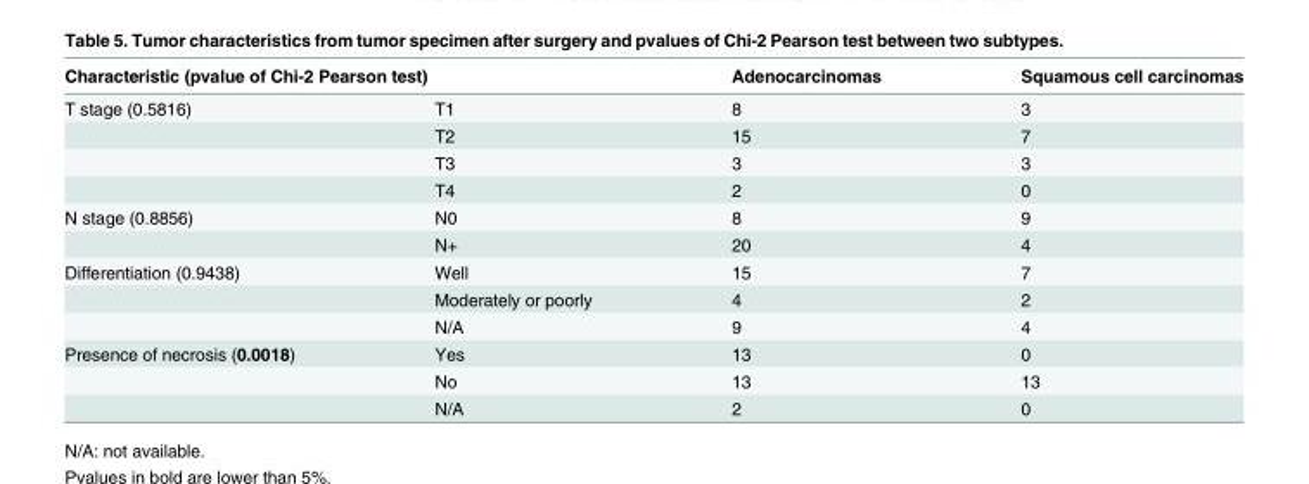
<table><thead><tr><td colspan="2">Characteristic (pvalue of Chi-2 Pearson test)</td><td rowspan="2">Adenocarcinomas 8</td><td rowspan="2">Squamous cell carcinomas 3</td></tr><tr><td>T stage (0.5816)</td><td>T1</td></tr></thead><tbody><tr><td></td><td>T2</td><td>15</td><td>7</td></tr><tr><td></td><td>T3</td><td>3</td><td>3</td></tr><tr><td></td><td>T4</td><td>2</td><td>0</td></tr><tr><td rowspan="2">N stage (0.8856)</td><td>N0</td><td>8</td><td>9</td></tr><tr><td>N+</td><td>20</td><td>4</td></tr><tr><td rowspan="3">Differentiation (0.9438)</td><td>Well</td><td>15</td><td>7</td></tr><tr><td>Moderately or poorly</td><td>4</td><td>2</td></tr><tr><td>N/A</td><td>9</td><td>4</td></tr><tr><td rowspan="3">Presence of necrosis (0.0018)</td><td>Yes</td><td>13</td><td>0</td></tr><tr><td>No</td><td>13</td><td>13</td></tr><tr><td>N/A</td><td>2</td><td>0</td></tr></tbody></table>